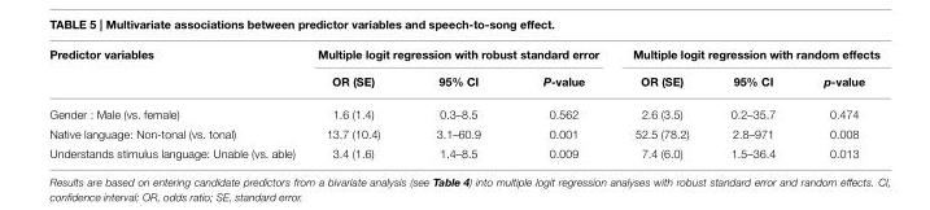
<table><thead><tr><td rowspan="2">Predictor variables</td><td colspan="3">Multiple logit regression with robust standard error</td><td colspan="3">Multiple logit regression with random effects</td></tr><tr><td>OR (SE)</td><td>95% CI</td><td>P-value</td><td>OR (SE)</td><td>95% CI</td><td>p-value</td></tr></thead><tbody><tr><td>Gender : Male (vs. female)</td><td>1.6 (1.4)</td><td>0.3–8.5</td><td>0.562</td><td>2.6 (3.5)</td><td>0.2–35.7</td><td>0.474</td></tr><tr><td>Native language: Non-tonal (vs. tonal)</td><td>13.7 (10.4)</td><td>3.1–60.9</td><td>0.001</td><td>52.5 (78.2)</td><td>2.8–971</td><td>0.008</td></tr><tr><td>Understands stimulus language: Unable (vs. able)</td><td>3.4 (1.6)</td><td>1.4–8.5</td><td>0.009</td><td>7.4 (6.0)</td><td>1.5–36.4</td><td>0.013</td></tr></tbody></table>